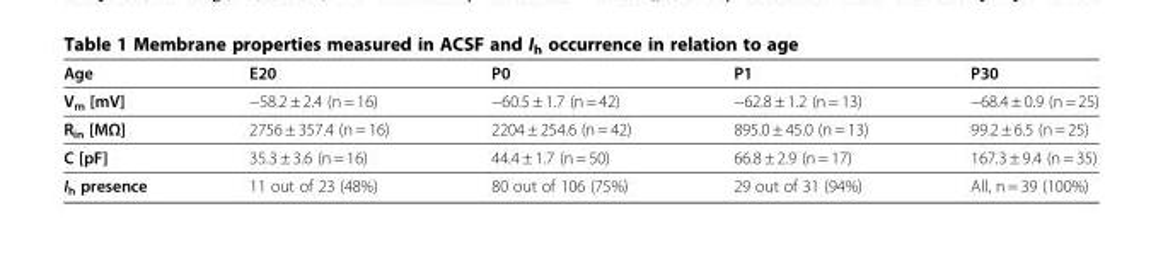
<table><thead><tr><td>Age</td><td>E20</td><td>P0</td><td>P1</td><td>P30</td></tr></thead><tbody><tr><td>V<sub>m</sub> [mV]</td><td>−58.2 ± 2.4 (n = 16)</td><td>−60.5 ± 1.7 (n = 42)</td><td>−62.8 ± 1.2 (n = 13)</td><td>−68.4 ± 0.9 (n = 25)</td></tr><tr><td>R<sub>in</sub> [MΩ]</td><td>2756 ± 357.4 (n = 16)</td><td>2204 ± 254.6 (n = 42)</td><td>895.0 ± 45.0 (n = 13)</td><td>99.2 ± 6.5 (n = 25)</td></tr><tr><td>C [pF]</td><td>35.3 ± 3.6 (n = 16)</td><td>44.4 ± 1.7 (n = 50)</td><td>66.8 ± 2.9 (n = 17)</td><td>167.3 ± 9.4 (n = 35)</td></tr><tr><td>I<sub>h</sub> presence</td><td>11 out of 23 (48%)</td><td>80 out of 106 (75%)</td><td>29 out of 31 (94%)</td><td>All, n = 39 (100%)</td></tr></tbody></table>